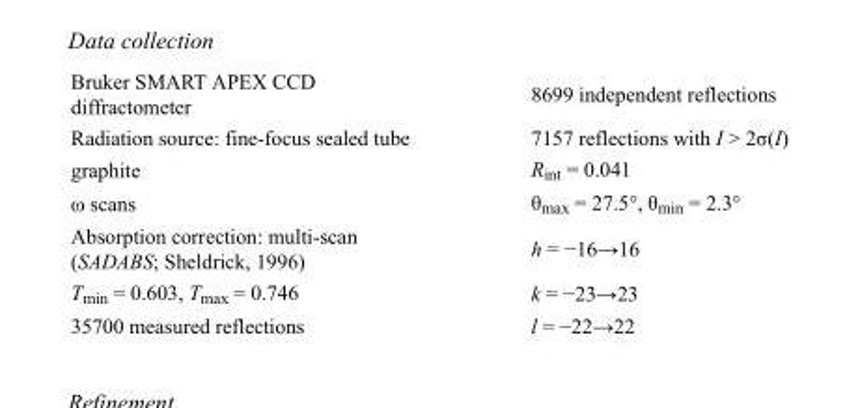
<table><tbody><tr><td>Bruker SMART APEX CCD diffractometer</td><td>8699 independent reflections</td></tr><tr><td>Radiation source: fine-focus sealed tube</td><td>7157 reflections with I &gt; 2σ(I)</td></tr><tr><td>graphite</td><td>R<sub>int</sub> = 0.041</td></tr><tr><td>ω scans</td><td>θ<sub>max</sub> = 27.5°, θ<sub>min</sub> = 2.3°</td></tr><tr><td>Absorption correction: multi-scan (SADABS; Sheldrick, 1996)</td><td>h = −16→16</td></tr><tr><td>T<sub>min</sub> = 0.603, T<sub>max</sub> = 0.746</td><td>k = −23→23</td></tr><tr><td>35700 measured reflections</td><td>l = −22→22</td></tr></tbody></table>